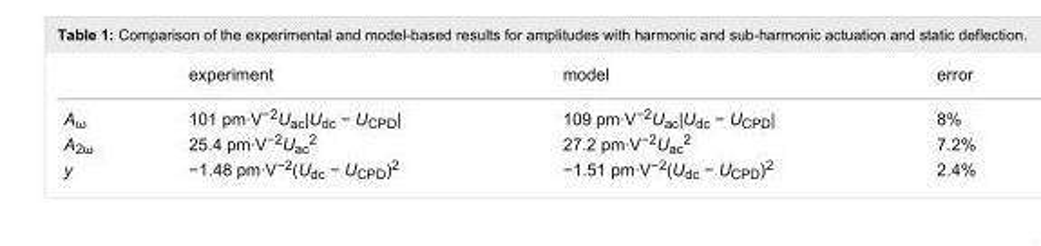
<table><thead><tr><td></td><td>experiment</td><td>model</td><td>error</td></tr></thead><tbody><tr><td>A<sub>ω</sub></td><td>101 pm·V<sup>−2</sup>U<sub>ac</sub>|U<sub>dc</sub> − U<sub>CPD</sub>|</td><td>109 pm·V<sup>−2</sup>U<sub>ac</sub>|U<sub>dc</sub> − U<sub>CPD</sub>|</td><td>8%</td></tr><tr><td>A<sub>2ω</sub></td><td>25.4 pm·V<sup>−2</sup>U<sub>ac</sub><sup>2</sup></td><td>27.2 pm·V<sup>−2</sup>U<sub>ac</sub><sup>2</sup></td><td>7.2%</td></tr><tr><td>y</td><td>−1.48 pm·V<sup>−2</sup>(U<sub>dc</sub> − U<sub>CPD</sub>)<sup>2</sup></td><td>−1.51 pm·V<sup>−2</sup>(U<sub>dc</sub> − U<sub>CPD</sub>)<sup>2</sup></td><td>2.4%</td></tr></tbody></table>